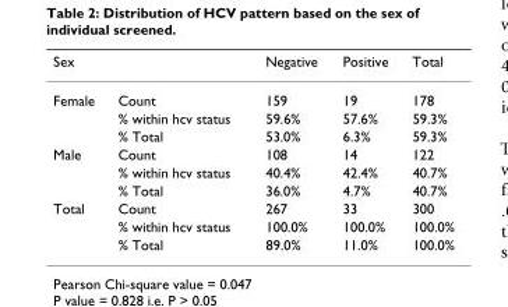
<table><thead><tr><td>Sex</td><td></td><td>Negative</td><td>Positive</td><td>Total</td></tr></thead><tbody><tr><td rowspan="3">Female</td><td>Count</td><td>159</td><td>19</td><td>178</td></tr><tr><td>% within hcv status</td><td>59.6%</td><td>57.6%</td><td>59.3%</td></tr><tr><td>% Total</td><td>53.0%</td><td>6.3%</td><td>59.3%</td></tr><tr><td rowspan="3">Male</td><td>Count</td><td>108</td><td>14</td><td>122</td></tr><tr><td>% within hcv status</td><td>40.4%</td><td>42.4%</td><td>40.7%</td></tr><tr><td>% Total</td><td>36.0%</td><td>4.7%</td><td>40.7%</td></tr><tr><td rowspan="3">Total</td><td>Count</td><td>267</td><td>33</td><td>300</td></tr><tr><td>% within hcv status</td><td>100.0%</td><td>100.0%</td><td>100.0%</td></tr><tr><td>% Total</td><td>89.0%</td><td>11.0%</td><td>100.0%</td></tr></tbody></table>